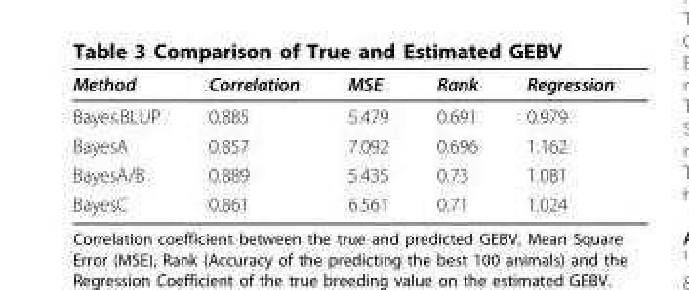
<table><thead><tr><td>Method</td><td>Correlation</td><td>MSE</td><td>Rank</td><td>Regression</td></tr></thead><tbody><tr><td>Bayes.BLUP</td><td>0.885</td><td>5.479</td><td>0.691</td><td>0.979</td></tr><tr><td>BayesA</td><td>0.857</td><td>7.092</td><td>0.696</td><td>1.162</td></tr><tr><td>BayesA/B</td><td>0.889</td><td>5.435</td><td>0.73</td><td>1.081</td></tr><tr><td>BayesC</td><td>0.861</td><td>6.561</td><td>0.71</td><td>1.024</td></tr></tbody></table>